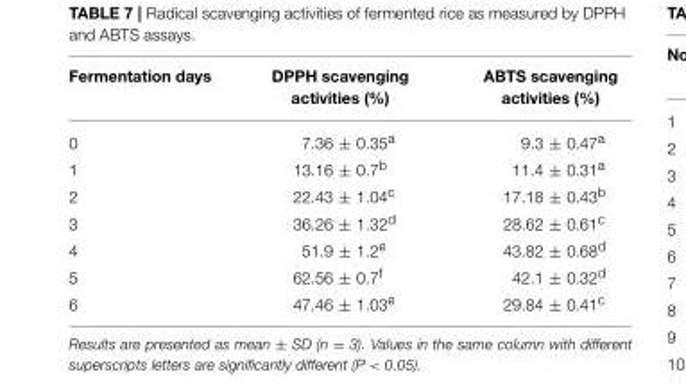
<table><thead><tr><td>Fermentation days</td><td>DPPH scavenging activities (%)</td><td>ABTS scavenging activities (%)</td></tr></thead><tbody><tr><td>0</td><td>7.36 ± 0.35<sup>a</sup></td><td>9.3 ± 0.47<sup>a</sup></td></tr><tr><td>1</td><td>13.16 ± 0.7<sup>b</sup></td><td>11.4 ± 0.31<sup>a</sup></td></tr><tr><td>2</td><td>22.43 ± 1.04<sup>c</sup></td><td>17.18 ± 0.43<sup>b</sup></td></tr><tr><td>3</td><td>36.26 ± 1.32<sup>d</sup></td><td>28.62 ± 0.61<sup>c</sup></td></tr><tr><td>4</td><td>51.9 ± 1.2<sup>e</sup></td><td>43.82 ± 0.68<sup>d</sup></td></tr><tr><td>5</td><td>62.56 ± 0.7<sup>f</sup></td><td>42.1 ± 0.32<sup>d</sup></td></tr><tr><td>6</td><td>47.46 ± 1.03<sup>e</sup></td><td>29.84 ± 0.41<sup>c</sup></td></tr></tbody></table>